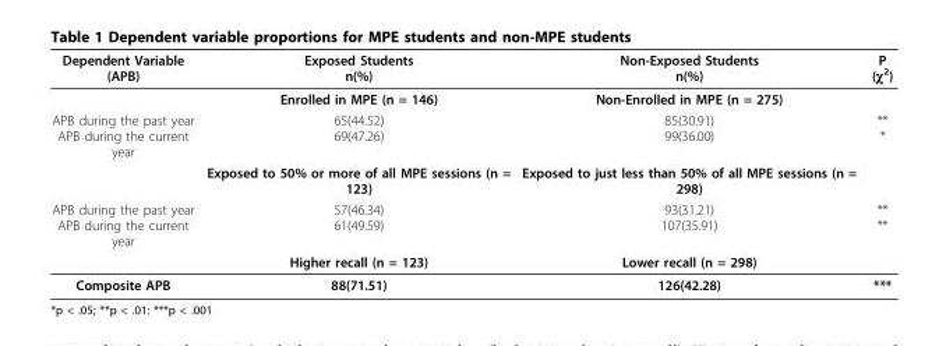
<table><thead><tr><td>Dependent Variable (APB)</td><td>Exposed Students n(%)</td><td>Non-Exposed Students n(%)</td><td>P (χ<sup>2</sup>)</td></tr></thead><tbody><tr><td></td><td>Enrolled in MPE (n = 146)</td><td>Non-Enrolled in MPE (n = 275)</td><td></td></tr><tr><td rowspan="2">APB during the past year APB during the current year</td><td>65(44.52) 69(47.26)</td><td>85(30.91) 99(36.00)</td><td>** *</td></tr><tr><td>Exposed to 50% or more of all MPE sessions (n = 123)</td><td>Exposed to just less than 50% of all MPE sessions (n = 298)</td><td></td></tr><tr><td rowspan="2">APB during the past year APB during the current year</td><td>57(46.34) 61(49.59)</td><td>93(31.21) 107(35.91)</td><td>** **</td></tr><tr><td>Higher recall (n = 123)</td><td>Lower recall (n = 298)</td><td></td></tr><tr><td>Composite APB</td><td>88(71.51)</td><td>126(42.28)</td><td>***</td></tr></tbody></table>